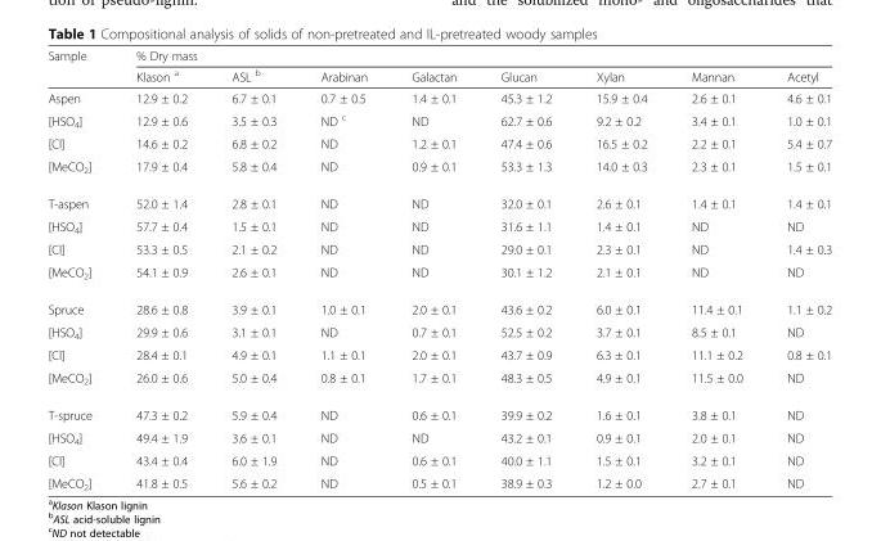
<table><thead><tr><td rowspan="2">Sample</td><td colspan="8">% Dry mass</td></tr><tr><td>Klason <sup>a</sup></td><td>ASL <sup>b</sup></td><td>Arabinan</td><td>Galactan</td><td>Glucan</td><td>Xylan</td><td>Mannan</td><td>Acetyl</td></tr></thead><tbody><tr><td>Aspen</td><td>12.9 ± 0.2</td><td>6.7 ± 0.1</td><td>0.7 ± 0.5</td><td>1.4 ± 0.1</td><td>45.3 ± 1.2</td><td>15.9 ± 0.4</td><td>2.6 ± 0.1</td><td>4.6 ± 0.1</td></tr><tr><td>[HSO<sub>4</sub>]</td><td>12.9 ± 0.6</td><td>3.5 ± 0.3</td><td>ND <sup>c</sup></td><td>ND</td><td>62.7 ± 0.6</td><td>9.2 ± 0.2</td><td>3.4 ± 0.1</td><td>1.0 ± 0.1</td></tr><tr><td>[Cl]</td><td>14.6 ± 0.2</td><td>6.8 ± 0.2</td><td>ND</td><td>1.2 ± 0.1</td><td>47.4 ± 0.6</td><td>16.5 ± 0.2</td><td>2.2 ± 0.1</td><td>5.4 ± 0.7</td></tr><tr><td>[MeCO<sub>2</sub>]</td><td>17.9 ± 0.4</td><td>5.8 ± 0.4</td><td>ND</td><td>0.9 ± 0.1</td><td>53.3 ± 1.3</td><td>14.0 ± 0.3</td><td>2.3 ± 0.1</td><td>1.5 ± 0.1</td></tr><tr><td>T-aspen</td><td>52.0 ± 1.4</td><td>2.8 ± 0.1</td><td>ND</td><td>ND</td><td>32.0 ± 0.1</td><td>2.6 ± 0.1</td><td>1.4 ± 0.1</td><td>1.4 ± 0.1</td></tr><tr><td>[HSO<sub>4</sub>]</td><td>57.7 ± 0.4</td><td>1.5 ± 0.1</td><td>ND</td><td>ND</td><td>31.6 ± 1.1</td><td>1.4 ± 0.1</td><td>ND</td><td>ND</td></tr><tr><td>[Cl]</td><td>53.3 ± 0.5</td><td>2.1 ± 0.2</td><td>ND</td><td>ND</td><td>29.0 ± 0.1</td><td>2.3 ± 0.1</td><td>ND</td><td>1.4 ± 0.3</td></tr><tr><td>[MeCO<sub>2</sub>]</td><td>54.1 ± 0.9</td><td>2.6 ± 0.1</td><td>ND</td><td>ND</td><td>30.1 ± 1.2</td><td>2.1 ± 0.1</td><td>ND</td><td>ND</td></tr><tr><td>Spruce</td><td>28.6 ± 0.8</td><td>3.9 ± 0.1</td><td>1.0 ± 0.1</td><td>2.0 ± 0.1</td><td>43.6 ± 0.2</td><td>6.0 ± 0.1</td><td>11.4 ± 0.1</td><td>1.1 ± 0.2</td></tr><tr><td>[HSO<sub>4</sub>]</td><td>29.9 ± 0.6</td><td>3.1 ± 0.1</td><td>ND</td><td>0.7 ± 0.1</td><td>52.5 ± 0.2</td><td>3.7 ± 0.1</td><td>8.5 ± 0.1</td><td>ND</td></tr><tr><td>[Cl]</td><td>28.4 ± 0.1</td><td>4.9 ± 0.1</td><td>1.1 ± 0.1</td><td>2.0 ± 0.1</td><td>43.7 ± 0.9</td><td>6.3 ± 0.1</td><td>11.1 ± 0.2</td><td>0.8 ± 0.1</td></tr><tr><td>[MeCO<sub>2</sub>]</td><td>26.0 ± 0.6</td><td>5.0 ± 0.4</td><td>0.8 ± 0.1</td><td>1.7 ± 0.1</td><td>48.3 ± 0.5</td><td>4.9 ± 0.1</td><td>11.5 ± 0.0</td><td>ND</td></tr><tr><td>T-spruce</td><td>47.3 ± 0.2</td><td>5.9 ± 0.4</td><td>ND</td><td>0.6 ± 0.1</td><td>39.9 ± 0.2</td><td>1.6 ± 0.1</td><td>3.8 ± 0.1</td><td>ND</td></tr><tr><td>[HSO<sub>4</sub>]</td><td>49.4 ± 1.9</td><td>3.6 ± 0.1</td><td>ND</td><td>ND</td><td>43.2 ± 0.1</td><td>0.9 ± 0.1</td><td>2.0 ± 0.1</td><td>ND</td></tr><tr><td>[Cl]</td><td>43.4 ± 0.4</td><td>6.0 ± 1.9</td><td>ND</td><td>0.6 ± 0.1</td><td>40.0 ± 1.1</td><td>1.5 ± 0.1</td><td>3.2 ± 0.1</td><td>ND</td></tr><tr><td>[MeCO<sub>2</sub>]</td><td>41.8 ± 0.5</td><td>5.6 ± 0.2</td><td>ND</td><td>0.5 ± 0.1</td><td>38.9 ± 0.3</td><td>1.2 ± 0.0</td><td>2.7 ± 0.1</td><td>ND</td></tr></tbody></table>